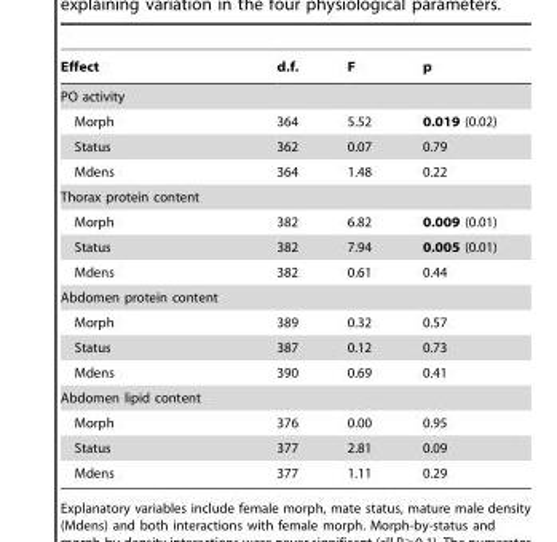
<table><thead><tr><td>Effect</td><td>d.f.</td><td>F</td><td>p</td></tr></thead><tbody><tr><td colspan="4">PO activity</td></tr><tr><td>Morph</td><td>364</td><td>5.52</td><td>0.019 (0.02)</td></tr><tr><td>Status</td><td>362</td><td>0.07</td><td>0.79</td></tr><tr><td>Mdens</td><td>364</td><td>1.48</td><td>0.22</td></tr><tr><td colspan="4">Thorax protein content</td></tr><tr><td>Morph</td><td>382</td><td>6.82</td><td>0.009 (0.01)</td></tr><tr><td>Status</td><td>382</td><td>7.94</td><td>0.005 (0.01)</td></tr><tr><td>Mdens</td><td>382</td><td>0.61</td><td>0.44</td></tr><tr><td colspan="4">Abdomen protein content</td></tr><tr><td>Morph</td><td>389</td><td>0.32</td><td>0.57</td></tr><tr><td>Status</td><td>387</td><td>0.12</td><td>0.73</td></tr><tr><td>Mdens</td><td>390</td><td>0.69</td><td>0.41</td></tr><tr><td colspan="4">Abdomen lipid content</td></tr><tr><td>Morph</td><td>376</td><td>0.00</td><td>0.95</td></tr><tr><td>Status</td><td>377</td><td>2.81</td><td>0.09</td></tr><tr><td>Mdens</td><td>377</td><td>1.11</td><td>0.29</td></tr></tbody></table>